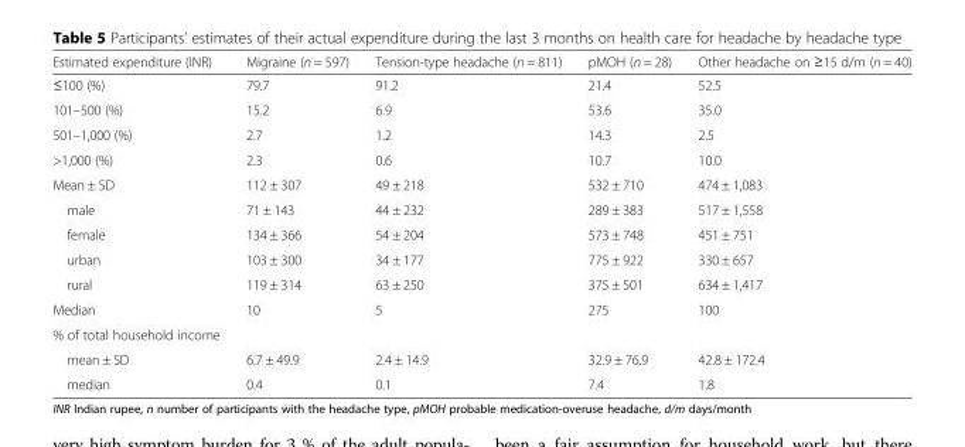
<table><thead><tr><td>Estimated expenditure (INR)</td><td>Migraine (n = 597)</td><td>Tension-type headache (n = 811)</td><td>pMOH (n = 28)</td><td>Other headache on ≥15 d/m (n = 40)</td></tr></thead><tbody><tr><td>≤100 (%)</td><td>79.7</td><td>91.2</td><td>21.4</td><td>52.5</td></tr><tr><td>101–500 (%)</td><td>15.2</td><td>6.9</td><td>53.6</td><td>35.0</td></tr><tr><td>501–1,000 (%)</td><td>2.7</td><td>1.2</td><td>14.3</td><td>2.5</td></tr><tr><td>&gt;1,000 (%)</td><td>2.3</td><td>0.6</td><td>10.7</td><td>10.0</td></tr><tr><td>Mean ± SD</td><td>112 ± 307</td><td>49 ± 218</td><td>532 ± 710</td><td>474 ± 1,083</td></tr><tr><td>male</td><td>71 ± 143</td><td>44 ± 232</td><td>289 ± 383</td><td>517 ± 1,558</td></tr><tr><td>female</td><td>134 ± 366</td><td>54 ± 204</td><td>573 ± 748</td><td>451 ± 751</td></tr><tr><td>urban</td><td>103 ± 300</td><td>34 ± 177</td><td>775 ± 922</td><td>330 ± 657</td></tr><tr><td>rural</td><td>119 ± 314</td><td>63 ± 250</td><td>375 ± 501</td><td>634 ± 1,417</td></tr><tr><td>Median</td><td>10</td><td>5</td><td>275</td><td>100</td></tr><tr><td colspan="5">% of total household income</td></tr><tr><td>mean ± SD</td><td>6.7 ± 49.9</td><td>2.4 ± 14.9</td><td>32.9 ± 76.9</td><td>42.8 ± 172.4</td></tr><tr><td>median</td><td>0.4</td><td>0.1</td><td>7.4</td><td>1.8</td></tr></tbody></table>